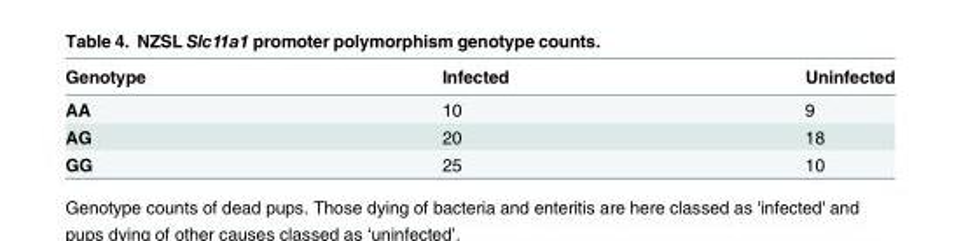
<table><thead><tr><td>Genotype</td><td>Infected</td><td>Uninfected</td></tr></thead><tbody><tr><td>AA</td><td>10</td><td>9</td></tr><tr><td>AG</td><td>20</td><td>18</td></tr><tr><td>GG</td><td>25</td><td>10</td></tr></tbody></table>